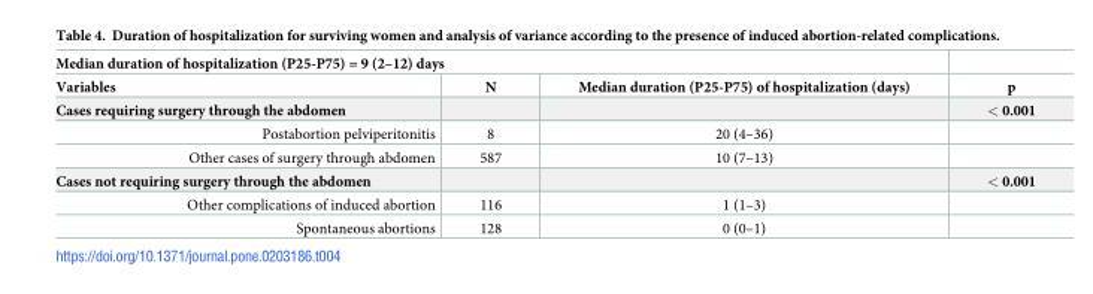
<table><thead><tr><td colspan="3">Median duration of hospitalization (P25-P75) = 9 (2–12) days</td><td rowspan="2">p</td></tr><tr><td>Variables</td><td>N</td><td>Median duration (P25-P75) of hospitalization (days)</td></tr></thead><tbody><tr><td>Cases requiring surgery through the abdomen</td><td></td><td></td><td>&lt; 0.001</td></tr><tr><td>Postabortion pelviperitonitis</td><td>8</td><td>20 (4–36)</td><td></td></tr><tr><td>Other cases of surgery through abdomen</td><td>587</td><td>10 (7–13)</td><td></td></tr><tr><td>Cases not requiring surgery through the abdomen</td><td></td><td></td><td>&lt; 0.001</td></tr><tr><td>Other complications of induced abortion</td><td>116</td><td>1 (1–3)</td><td></td></tr><tr><td>Spontaneous abortions</td><td>128</td><td>0 (0–1)</td><td></td></tr></tbody></table>